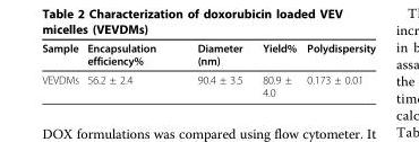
<table><thead><tr><td>Sample</td><td>Encapsulation efficiency%</td><td>Diameter (nm)</td><td>Yield%</td><td>Polydispersity</td></tr></thead><tbody><tr><td>VEVDMs</td><td>56.2 ± 2.4</td><td>90.4 ± 3.5</td><td>80.9 ± 4.0</td><td>0.173 ± 0.01</td></tr></tbody></table>